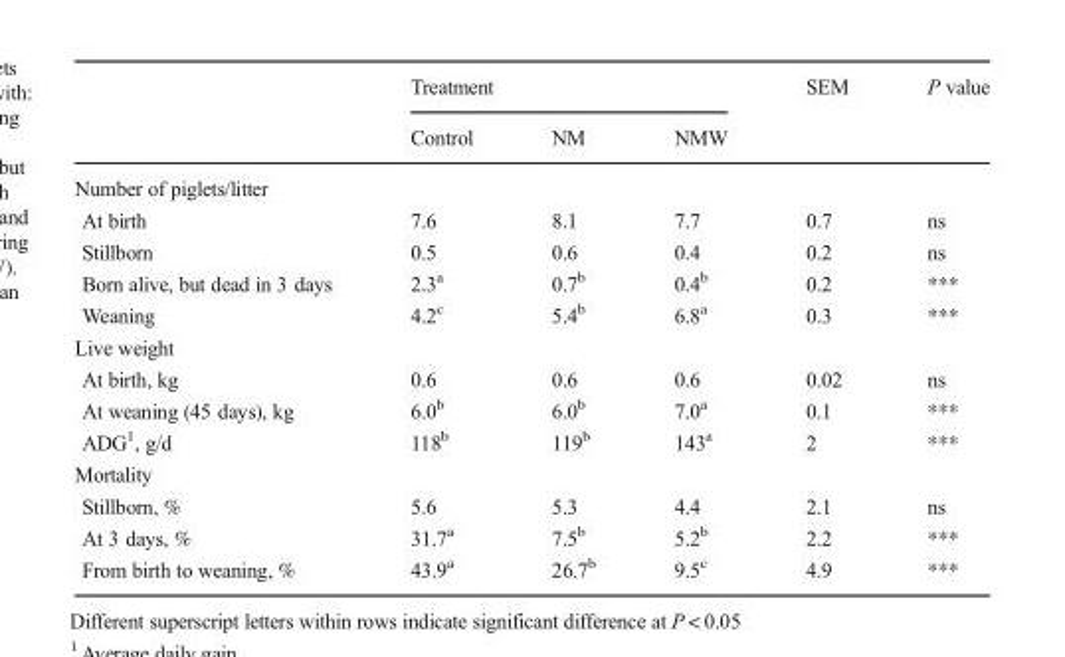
<table><thead><tr><td rowspan="2"></td><td colspan="3">Treatment</td><td rowspan="2">SEM</td><td rowspan="2">P value</td></tr><tr><td>Control</td><td>NM</td><td>NMW</td></tr></thead><tbody><tr><td colspan="6">Number of piglets/litter</td></tr><tr><td>At birth</td><td>7.6</td><td>8.1</td><td>7.7</td><td>0.7</td><td>ns</td></tr><tr><td>Stillborn</td><td>0.5</td><td>0.6</td><td>0.4</td><td>0.2</td><td>ns</td></tr><tr><td>Born alive, but dead in 3 days</td><td>2.3<sup>a</sup></td><td>0.7<sup>b</sup></td><td>0.4<sup>b</sup></td><td>0.2</td><td>***</td></tr><tr><td>Weaning</td><td>4.2<sup>c</sup></td><td>5.4<sup>b</sup></td><td>6.8<sup>a</sup></td><td>0.3</td><td>***</td></tr><tr><td colspan="6">Live weight</td></tr><tr><td>At birth, kg</td><td>0.6</td><td>0.6</td><td>0.6</td><td>0.02</td><td>ns</td></tr><tr><td>At weaning (45 days), kg</td><td>6.0<sup>b</sup></td><td>6.0<sup>b</sup></td><td>7.0<sup>a</sup></td><td>0.1</td><td>***</td></tr><tr><td>ADG<sup>1</sup>, g/d</td><td>118<sup>b</sup></td><td>119<sup>b</sup></td><td>143<sup>a</sup></td><td>2</td><td>***</td></tr><tr><td colspan="6">Mortality</td></tr><tr><td>Stillborn, %</td><td>5.6</td><td>5.3</td><td>4.4</td><td>2.1</td><td>ns</td></tr><tr><td>At 3 days, %</td><td>31.7<sup>a</sup></td><td>7.5<sup>b</sup></td><td>5.2<sup>b</sup></td><td>2.2</td><td>***</td></tr><tr><td>From birth to weaning, %</td><td>43.9<sup>a</sup></td><td>26.7<sup>b</sup></td><td>9.5<sup>c</sup></td><td>4.9</td><td>***</td></tr></tbody></table>